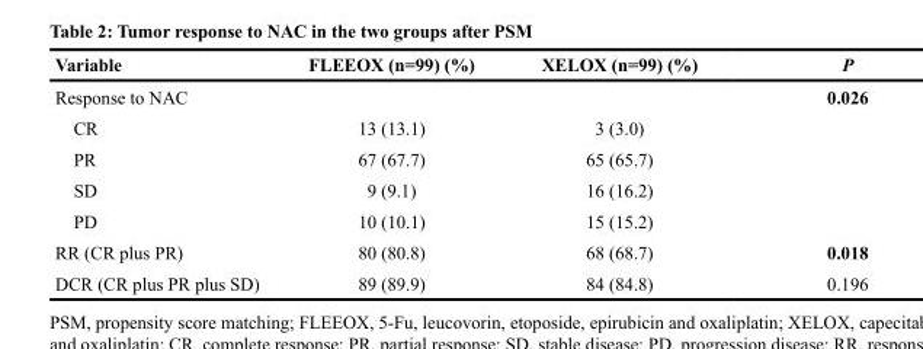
<table><thead><tr><td>Variable</td><td>FLEEOX (n=99) (%)</td><td>XELOX (n=99) (%)</td><td>P</td></tr></thead><tbody><tr><td>Response to NAC</td><td></td><td></td><td>0.026</td></tr><tr><td>CR</td><td>13 (13.1)</td><td>3 (3.0)</td><td></td></tr><tr><td>PR</td><td>67 (67.7)</td><td>65 (65.7)</td><td></td></tr><tr><td>SD</td><td>9 (9.1)</td><td>16 (16.2)</td><td></td></tr><tr><td>PD</td><td>10 (10.1)</td><td>15 (15.2)</td><td></td></tr><tr><td>RR (CR plus PR)</td><td>80 (80.8)</td><td>68 (68.7)</td><td>0.018</td></tr><tr><td>DCR (CR plus PR plus SD)</td><td>89 (89.9)</td><td>84 (84.8)</td><td>0.196</td></tr></tbody></table>